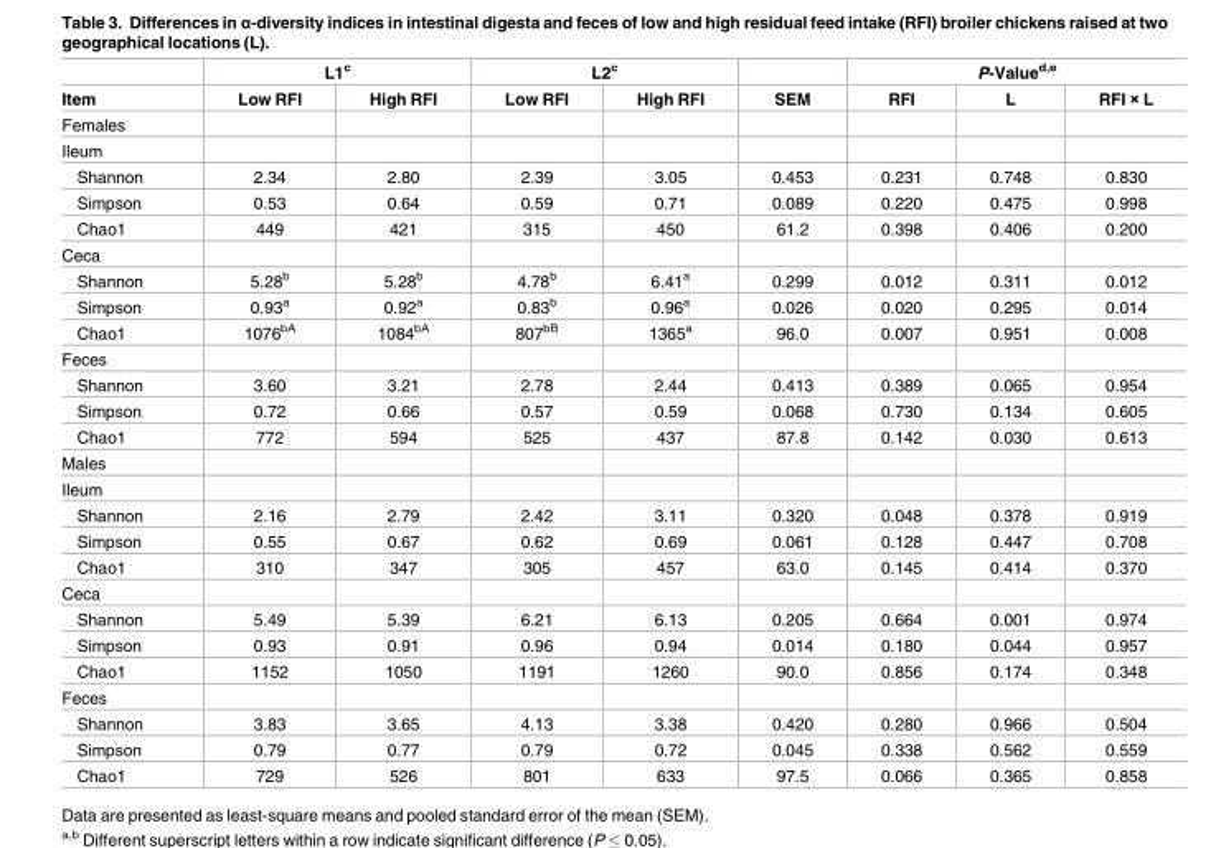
<table><thead><tr><td rowspan="2">Item</td><td colspan="2">L1<sup>c</sup></td><td colspan="2">L2<sup>c</sup></td><td rowspan="2">SEM</td><td colspan="3">P-Value<sup>d,e</sup></td></tr><tr><td>Low RFI</td><td>High RFI</td><td>Low RFI</td><td>High RFI</td><td>RFI</td><td>L</td><td>RFI × L</td></tr></thead><tbody><tr><td colspan="9">Females</td></tr><tr><td colspan="9">Ileum</td></tr><tr><td>Shannon</td><td>2.34</td><td>2.80</td><td>2.39</td><td>3.05</td><td>0.453</td><td>0.231</td><td>0.748</td><td>0.830</td></tr><tr><td>Simpson</td><td>0.53</td><td>0.64</td><td>0.59</td><td>0.71</td><td>0.089</td><td>0.220</td><td>0.475</td><td>0.998</td></tr><tr><td>Chao1</td><td>449</td><td>421</td><td>315</td><td>450</td><td>61.2</td><td>0.398</td><td>0.406</td><td>0.200</td></tr><tr><td colspan="9">Ceca</td></tr><tr><td>Shannon</td><td>5.28<sup>b</sup></td><td>5.28<sup>b</sup></td><td>4.78<sup>b</sup></td><td>6.41<sup>a</sup></td><td>0.299</td><td>0.012</td><td>0.311</td><td>0.012</td></tr><tr><td>Simpson</td><td>0.93<sup>a</sup></td><td>0.92<sup>a</sup></td><td>0.83<sup>b</sup></td><td>0.96<sup>a</sup></td><td>0.026</td><td>0.020</td><td>0.295</td><td>0.014</td></tr><tr><td>Chao1</td><td>1076<sup>bA</sup></td><td>1084<sup>bA</sup></td><td>807<sup>bB</sup></td><td>1365<sup>a</sup></td><td>96.0</td><td>0.007</td><td>0.951</td><td>0.008</td></tr><tr><td colspan="9">Feces</td></tr><tr><td>Shannon</td><td>3.60</td><td>3.21</td><td>2.78</td><td>2.44</td><td>0.413</td><td>0.389</td><td>0.065</td><td>0.954</td></tr><tr><td>Simpson</td><td>0.72</td><td>0.66</td><td>0.57</td><td>0.59</td><td>0.068</td><td>0.730</td><td>0.134</td><td>0.605</td></tr><tr><td>Chao1</td><td>772</td><td>594</td><td>525</td><td>437</td><td>87.8</td><td>0.142</td><td>0.030</td><td>0.613</td></tr><tr><td colspan="9">Males</td></tr><tr><td colspan="9">Ileum</td></tr><tr><td>Shannon</td><td>2.16</td><td>2.79</td><td>2.42</td><td>3.11</td><td>0.320</td><td>0.048</td><td>0.378</td><td>0.919</td></tr><tr><td>Simpson</td><td>0.55</td><td>0.67</td><td>0.62</td><td>0.69</td><td>0.061</td><td>0.128</td><td>0.447</td><td>0.708</td></tr><tr><td>Chao1</td><td>310</td><td>347</td><td>305</td><td>457</td><td>63.0</td><td>0.145</td><td>0.414</td><td>0.370</td></tr><tr><td colspan="9">Ceca</td></tr><tr><td>Shannon</td><td>5.49</td><td>5.39</td><td>6.21</td><td>6.13</td><td>0.205</td><td>0.664</td><td>0.001</td><td>0.974</td></tr><tr><td>Simpson</td><td>0.93</td><td>0.91</td><td>0.96</td><td>0.94</td><td>0.014</td><td>0.180</td><td>0.044</td><td>0.957</td></tr><tr><td>Chao1</td><td>1152</td><td>1050</td><td>1191</td><td>1260</td><td>90.0</td><td>0.856</td><td>0.174</td><td>0.348</td></tr><tr><td colspan="9">Feces</td></tr><tr><td>Shannon</td><td>3.83</td><td>3.65</td><td>4.13</td><td>3.38</td><td>0.420</td><td>0.280</td><td>0.966</td><td>0.504</td></tr><tr><td>Simpson</td><td>0.79</td><td>0.77</td><td>0.79</td><td>0.72</td><td>0.045</td><td>0.338</td><td>0.562</td><td>0.559</td></tr><tr><td>Chao1</td><td>729</td><td>526</td><td>801</td><td>633</td><td>97.5</td><td>0.066</td><td>0.365</td><td>0.858</td></tr></tbody></table>